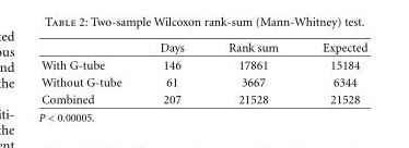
<table><thead><tr><td></td><td>Days</td><td>Rank sum</td><td>Expected</td></tr></thead><tbody><tr><td>With G-tube</td><td>146</td><td>17861</td><td>15184</td></tr><tr><td>Without G-tube</td><td>61</td><td>3667</td><td>6344</td></tr><tr><td>Combined</td><td>207</td><td>21528</td><td>21528</td></tr></tbody></table>